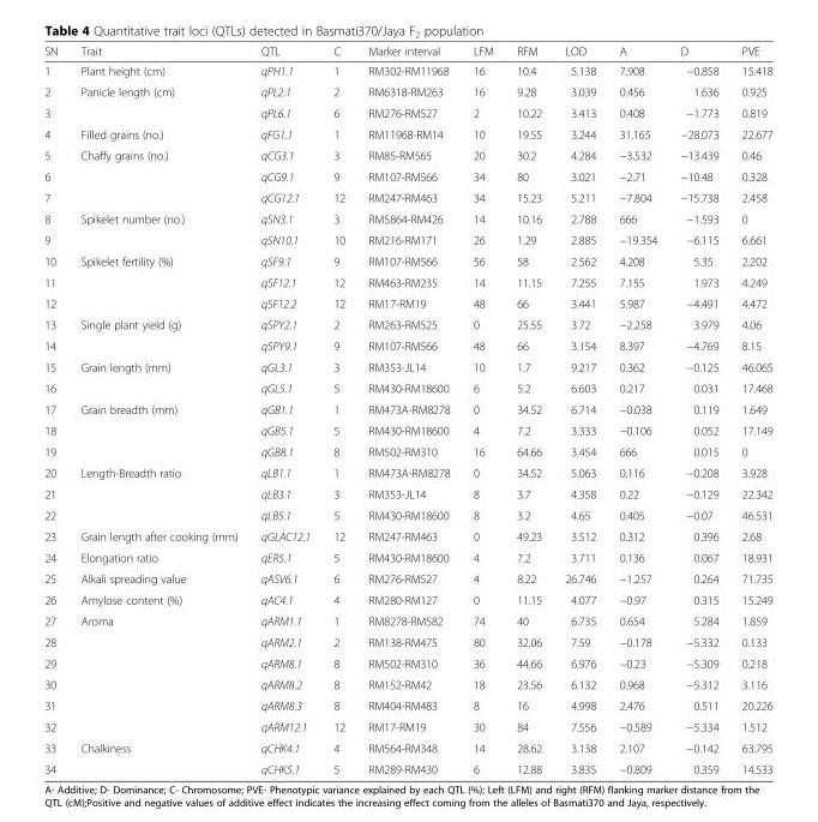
<table><thead><tr><td>SN</td><td>Trait</td><td>QTL</td><td>C</td><td>Marker interval</td><td>LFM</td><td>RFM</td><td>LOD</td><td>A</td><td>D</td><td>PVE</td></tr></thead><tbody><tr><td>1</td><td>Plant height (cm)</td><td>qPH1.1</td><td>1</td><td>RM302-RM11968</td><td>16</td><td>10.4</td><td>5.138</td><td>7.908</td><td>−0.858</td><td>15.418</td></tr><tr><td>2</td><td>Panicle length (cm)</td><td>qPL2.1</td><td>2</td><td>RM6318-RM263</td><td>16</td><td>9.28</td><td>3.039</td><td>0.456</td><td>1.636</td><td>0.925</td></tr><tr><td>3</td><td></td><td>qPL6.1</td><td>6</td><td>RM276-RM527</td><td>2</td><td>10.22</td><td>3.413</td><td>0.408</td><td>−1.773</td><td>0.819</td></tr><tr><td>4</td><td>Filled grains (no.)</td><td>qFG1.1</td><td>1</td><td>RM11968-RM14</td><td>10</td><td>19.55</td><td>3.244</td><td>31.165</td><td>−28.073</td><td>22.677</td></tr><tr><td>5</td><td>Chaffy grains (no.)</td><td>qCG3.1</td><td>3</td><td>RM85-RM565</td><td>20</td><td>30.2</td><td>4.284</td><td>−3.532</td><td>−13.439</td><td>0.46</td></tr><tr><td>6</td><td></td><td>qCG9.1</td><td>9</td><td>RM107-RM566</td><td>34</td><td>80</td><td>3.021</td><td>−2.71</td><td>−10.48</td><td>0.328</td></tr><tr><td>7</td><td></td><td>qCG12.1</td><td>12</td><td>RM247-RM463</td><td>34</td><td>15.23</td><td>5.211</td><td>−7.804</td><td>−15.738</td><td>2.458</td></tr><tr><td>8</td><td>Spikelet number (no.)</td><td>qSN3.1</td><td>3</td><td>RM5864-RM426</td><td>14</td><td>10.16</td><td>2.788</td><td>666</td><td>−1.593</td><td>0</td></tr><tr><td>9</td><td></td><td>qSN10.1</td><td>10</td><td>RM216-RM171</td><td>26</td><td>1.29</td><td>2.885</td><td>−19.354</td><td>−6.115</td><td>6.661</td></tr><tr><td>10</td><td>Spikelet fertility (%)</td><td>qSF9.1</td><td>9</td><td>RM107-RM566</td><td>56</td><td>58</td><td>2.562</td><td>4.208</td><td>5.35</td><td>2.202</td></tr><tr><td>11</td><td></td><td>qSF12.1</td><td>12</td><td>RM463-RM235</td><td>14</td><td>11.15</td><td>7.255</td><td>7.155</td><td>1.973</td><td>4.249</td></tr><tr><td>12</td><td></td><td>qSF12.2</td><td>12</td><td>RM17-RM19</td><td>48</td><td>66</td><td>3.441</td><td>5.987</td><td>−4.491</td><td>4.472</td></tr><tr><td>13</td><td>Single plant yield (g)</td><td>qSPY2.1</td><td>2</td><td>RM263-RM525</td><td>0</td><td>25.55</td><td>3.72</td><td>−2.258</td><td>3.979</td><td>4.06</td></tr><tr><td>14</td><td></td><td>qSPY9.1</td><td>9</td><td>RM107-RM566</td><td>48</td><td>66</td><td>3.154</td><td>8.397</td><td>−4.769</td><td>8.15</td></tr><tr><td>15</td><td>Grain length (mm)</td><td>qGL3.1</td><td>3</td><td>RM353-JL14</td><td>10</td><td>1.7</td><td>9.217</td><td>0.362</td><td>−0.125</td><td>46.065</td></tr><tr><td>16</td><td></td><td>qGL5.1</td><td>5</td><td>RM430-RM18600</td><td>6</td><td>5.2</td><td>6.603</td><td>0.217</td><td>0.031</td><td>17.468</td></tr><tr><td>17</td><td>Grain breadth (mm)</td><td>qGB1.1</td><td>1</td><td>RM473A-RM8278</td><td>0</td><td>34.52</td><td>6.714</td><td>−0.038</td><td>0.119</td><td>1.649</td></tr><tr><td>18</td><td></td><td>qGB5.1</td><td>5</td><td>RM430-RM18600</td><td>4</td><td>7.2</td><td>3.333</td><td>−0.106</td><td>0.052</td><td>17.149</td></tr><tr><td>19</td><td></td><td>qGB8.1</td><td>8</td><td>RM502-RM310</td><td>16</td><td>64.66</td><td>3.454</td><td>666</td><td>0.015</td><td>0</td></tr><tr><td>20</td><td>Length-Breadth ratio</td><td>qLB1.1</td><td>1</td><td>RM473A-RM8278</td><td>0</td><td>34.52</td><td>5.063</td><td>0.116</td><td>−0.208</td><td>3.928</td></tr><tr><td>21</td><td></td><td>qLB3.1</td><td>3</td><td>RM353-JL14</td><td>8</td><td>3.7</td><td>4.358</td><td>0.22</td><td>−0.129</td><td>22.342</td></tr><tr><td>22</td><td></td><td>qLB5.1</td><td>5</td><td>RM430-RM18600</td><td>8</td><td>3.2</td><td>4.65</td><td>0.405</td><td>−0.07</td><td>46.531</td></tr><tr><td>23</td><td>Grain length after cooking (mm)</td><td>qGLAC12.1</td><td>12</td><td>RM247-RM463</td><td>0</td><td>49.23</td><td>3.512</td><td>0.312</td><td>0.396</td><td>2.68</td></tr><tr><td>24</td><td>Elongation ratio</td><td>qER5.1</td><td>5</td><td>RM430-RM18600</td><td>4</td><td>7.2</td><td>3.711</td><td>0.136</td><td>0.067</td><td>18.931</td></tr><tr><td>25</td><td>Alkali spreading value</td><td>qASV6.1</td><td>6</td><td>RM276-RM527</td><td>4</td><td>8.22</td><td>26.746</td><td>−1.257</td><td>0.264</td><td>71.735</td></tr><tr><td>26</td><td>Amylose content (%)</td><td>qAC4.1</td><td>4</td><td>RM280-RM127</td><td>0</td><td>11.15</td><td>4.077</td><td>−0.97</td><td>0.315</td><td>15.249</td></tr><tr><td>27</td><td>Aroma</td><td>qARM1.1</td><td>1</td><td>RM8278-RM582</td><td>74</td><td>40</td><td>6.735</td><td>0.654</td><td>5.284</td><td>1.859</td></tr><tr><td>28</td><td></td><td>qARM2.1</td><td>2</td><td>RM138-RM475</td><td>80</td><td>32.06</td><td>7.59</td><td>−0.178</td><td>−5.332</td><td>0.133</td></tr><tr><td>29</td><td></td><td>qARM8.1</td><td>8</td><td>RM502-RM310</td><td>36</td><td>44.66</td><td>6.976</td><td>−0.23</td><td>−5.309</td><td>0.218</td></tr><tr><td>30</td><td></td><td>qARM8.2</td><td>8</td><td>RM152-RM42</td><td>18</td><td>23.56</td><td>6.132</td><td>0.968</td><td>−5.312</td><td>3.116</td></tr><tr><td>31</td><td></td><td>qARM8.3</td><td>8</td><td>RM404-RM483</td><td>8</td><td>16</td><td>4.998</td><td>2.476</td><td>0.511</td><td>20.226</td></tr><tr><td>32</td><td></td><td>qARM12.1</td><td>12</td><td>RM17-RM19</td><td>30</td><td>84</td><td>7.556</td><td>−0.589</td><td>−5.334</td><td>1.512</td></tr><tr><td>33</td><td>Chalkiness</td><td>qCHK4.1</td><td>4</td><td>RM564-RM348</td><td>14</td><td>28.62</td><td>3.138</td><td>2.107</td><td>−0.142</td><td>63.795</td></tr><tr><td>34</td><td></td><td>qCHK5.1</td><td>5</td><td>RM289-RM430</td><td>6</td><td>12.88</td><td>3.835</td><td>−0.809</td><td>0.359</td><td>14.533</td></tr></tbody></table>